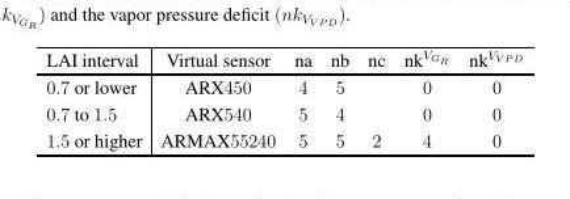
<table><thead><tr><td>LAI interval</td><td>Virtual sensor</td><td>na</td><td>nb</td><td>nc</td><td>nkVGR</td><td>nk<sup>V<sub>V P D</sub></sup></td></tr></thead><tbody><tr><td>0.7 or lower</td><td>ARX450</td><td>4</td><td>5</td><td></td><td>0</td><td>0</td></tr><tr><td>0.7 to 1.5</td><td>ARX540</td><td>5</td><td>4</td><td></td><td>0</td><td>0</td></tr><tr><td>1.5 or higher</td><td>ARMAX55240</td><td>5</td><td>5</td><td>2</td><td>4</td><td>0</td></tr></tbody></table>